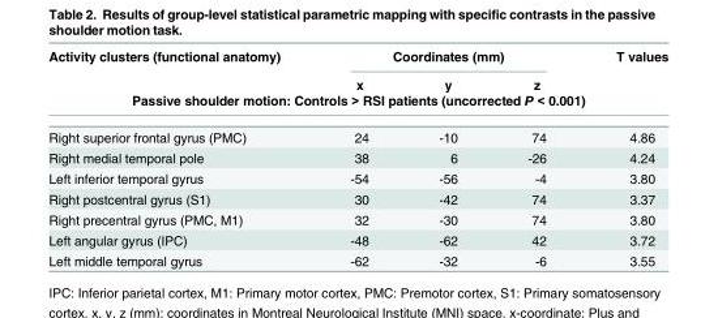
<table><thead><tr><td rowspan="2">Activity clusters (functional anatomy)</td><td colspan="3">Coordinates (mm)</td><td rowspan="2">T values</td></tr><tr><td>x</td><td>y</td><td>z</td></tr><tr><td colspan="5">Passive shoulder motion: Controls &gt; RSI patients (uncorrected P &lt; 0.001)</td></tr></thead><tbody><tr><td>Right superior frontal gyrus (PMC)</td><td>24</td><td>-10</td><td>74</td><td>4.86</td></tr><tr><td>Right medial temporal pole</td><td>38</td><td>6</td><td>-26</td><td>4.24</td></tr><tr><td>Left inferior temporal gyrus</td><td>-54</td><td>-56</td><td>-4</td><td>3.80</td></tr><tr><td>Right postcentral gyrus (S1)</td><td>30</td><td>-42</td><td>74</td><td>3.37</td></tr><tr><td>Right precentral gyrus (PMC, M1)</td><td>32</td><td>-30</td><td>74</td><td>3.80</td></tr><tr><td>Left angular gyrus (IPC)</td><td>-48</td><td>-62</td><td>42</td><td>3.72</td></tr><tr><td>Left middle temporal gyrus</td><td>-62</td><td>-32</td><td>-6</td><td>3.55</td></tr></tbody></table>